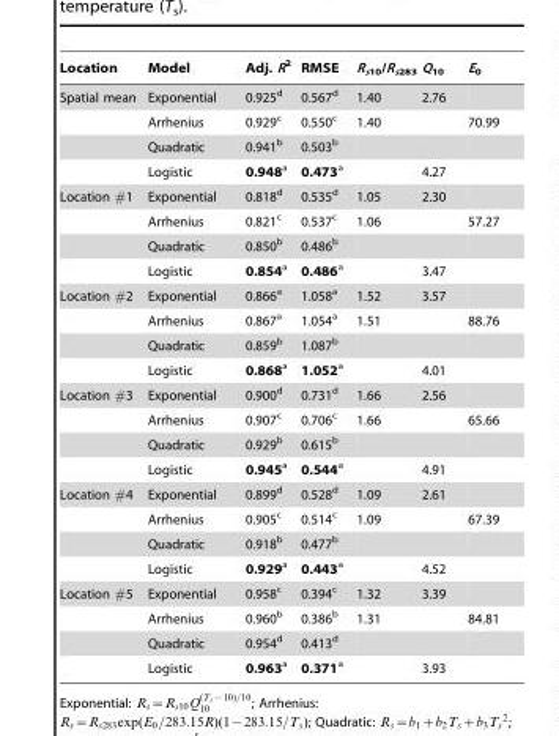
<table><thead><tr><td>Location</td><td>Model</td><td>Adj. R<sup>2</sup></td><td>RMSE</td><td>R<sub>s10</sub>/R<sub>s283</sub></td><td>Q<sub>10</sub></td><td>E<sub>0</sub></td></tr></thead><tbody><tr><td rowspan="4">Spatial mean</td><td>Exponential</td><td>0.925<sup>d</sup></td><td>0.567<sup>d</sup></td><td>1.40</td><td>2.76</td><td></td></tr><tr><td>Arrhenius</td><td>0.929<sup>c</sup></td><td>0.550<sup>c</sup></td><td>1.40</td><td></td><td>70.99</td></tr><tr><td>Quadratic</td><td>0.941<sup>b</sup></td><td>0.503<sup>b</sup></td><td></td><td></td><td></td></tr><tr><td>Logistic</td><td>0.948<sup>a</sup></td><td>0.473<sup>a</sup></td><td></td><td>4.27</td><td></td></tr><tr><td rowspan="4">Location #1</td><td>Exponential</td><td>0.818<sup>d</sup></td><td>0.535<sup>d</sup></td><td>1.05</td><td>2.30</td><td></td></tr><tr><td>Arrhenius</td><td>0.821<sup>c</sup></td><td>0.537<sup>c</sup></td><td>1.06</td><td></td><td>57.27</td></tr><tr><td>Quadratic</td><td>0.850<sup>b</sup></td><td>0.486<sup>b</sup></td><td></td><td></td><td></td></tr><tr><td>Logistic</td><td>0.854<sup>a</sup></td><td>0.486<sup>a</sup></td><td></td><td>3.47</td><td></td></tr><tr><td rowspan="4">Location #2</td><td>Exponential</td><td>0.866<sup>a</sup></td><td>1.058<sup>a</sup></td><td>1.52</td><td>3.57</td><td></td></tr><tr><td>Arrhenius</td><td>0.867<sup>a</sup></td><td>1.054<sup>a</sup></td><td>1.51</td><td></td><td>88.76</td></tr><tr><td>Quadratic</td><td>0.859<sup>b</sup></td><td>1.087<sup>b</sup></td><td></td><td></td><td></td></tr><tr><td>Logistic</td><td>0.868<sup>a</sup></td><td>1.052<sup>a</sup></td><td></td><td>4.01</td><td></td></tr><tr><td rowspan="4">Location #3</td><td>Exponential</td><td>0.900<sup>d</sup></td><td>0.731<sup>d</sup></td><td>1.66</td><td>2.56</td><td></td></tr><tr><td>Arrhenius</td><td>0.907<sup>c</sup></td><td>0.706<sup>c</sup></td><td>1.66</td><td></td><td>65.66</td></tr><tr><td>Quadratic</td><td>0.929<sup>b</sup></td><td>0.615<sup>b</sup></td><td></td><td></td><td></td></tr><tr><td>Logistic</td><td>0.945<sup>a</sup></td><td>0.544<sup>a</sup></td><td></td><td>4.91</td><td></td></tr><tr><td rowspan="4">Location #4</td><td>Exponential</td><td>0.899<sup>d</sup></td><td>0.528<sup>d</sup></td><td>1.09</td><td>2.61</td><td></td></tr><tr><td>Arrhenius</td><td>0.905<sup>c</sup></td><td>0.514<sup>c</sup></td><td>1.09</td><td></td><td>67.39</td></tr><tr><td>Quadratic</td><td>0.918<sup>b</sup></td><td>0.477<sup>b</sup></td><td></td><td></td><td></td></tr><tr><td>Logistic</td><td>0.929<sup>a</sup></td><td>0.443<sup>a</sup></td><td></td><td>4.52</td><td></td></tr><tr><td rowspan="4">Location #5</td><td>Exponential</td><td>0.958<sup>c</sup></td><td>0.394<sup>c</sup></td><td>1.32</td><td>3.39</td><td></td></tr><tr><td>Arrhenius</td><td>0.960<sup>b</sup></td><td>0.386<sup>b</sup></td><td>1.31</td><td></td><td>84.81</td></tr><tr><td>Quadratic</td><td>0.954<sup>d</sup></td><td>0.413<sup>d</sup></td><td></td><td></td><td></td></tr><tr><td>Logistic</td><td>0.963<sup>a</sup></td><td>0.371<sup>a</sup></td><td></td><td>3.93</td><td></td></tr></tbody></table>